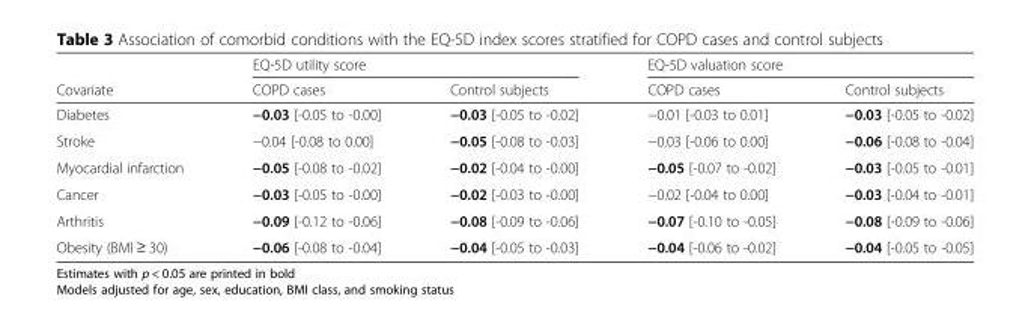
<table><thead><tr><td rowspan="2">Covariate</td><td colspan="2">EQ-5D utility score</td><td colspan="2">EQ-5D valuation score</td></tr><tr><td>COPD cases</td><td>Control subjects</td><td>COPD cases</td><td>Control subjects</td></tr></thead><tbody><tr><td>Diabetes</td><td>−0.03 [-0.05 to -0.00]</td><td>−0.03 [-0.05 to -0.02]</td><td>−0.01 [-0.03 to 0.01]</td><td>−0.03 [-0.05 to -0.02]</td></tr><tr><td>Stroke</td><td>−0.04 [-0.08 to 0.00]</td><td>−0.05 [-0.08 to -0.03]</td><td>−0.03 [-0.06 to 0.00]</td><td>−0.06 [-0.08 to -0.04]</td></tr><tr><td>Myocardial infarction</td><td>−0.05 [-0.08 to -0.02]</td><td>−0.02 [-0.04 to -0.00]</td><td>−0.05 [-0.07 to -0.02]</td><td>−0.03 [-0.05 to -0.01]</td></tr><tr><td>Cancer</td><td>−0.03 [-0.05 to -0.00]</td><td>−0.02 [-0.03 to -0.00]</td><td>−0.02 [-0.04 to 0.00]</td><td>−0.03 [-0.04 to -0.01]</td></tr><tr><td>Arthritis</td><td>−0.09 [-0.12 to -0.06]</td><td>−0.08 [-0.09 to -0.06]</td><td>−0.07 [-0.10 to -0.05]</td><td>−0.08 [-0.09 to -0.06]</td></tr><tr><td>Obesity (BMI ≥ 30)</td><td>−0.06 [-0.08 to -0.04]</td><td>−0.04 [-0.05 to -0.03]</td><td>−0.04 [-0.06 to -0.02]</td><td>−0.04 [-0.05 to -0.05]</td></tr></tbody></table>